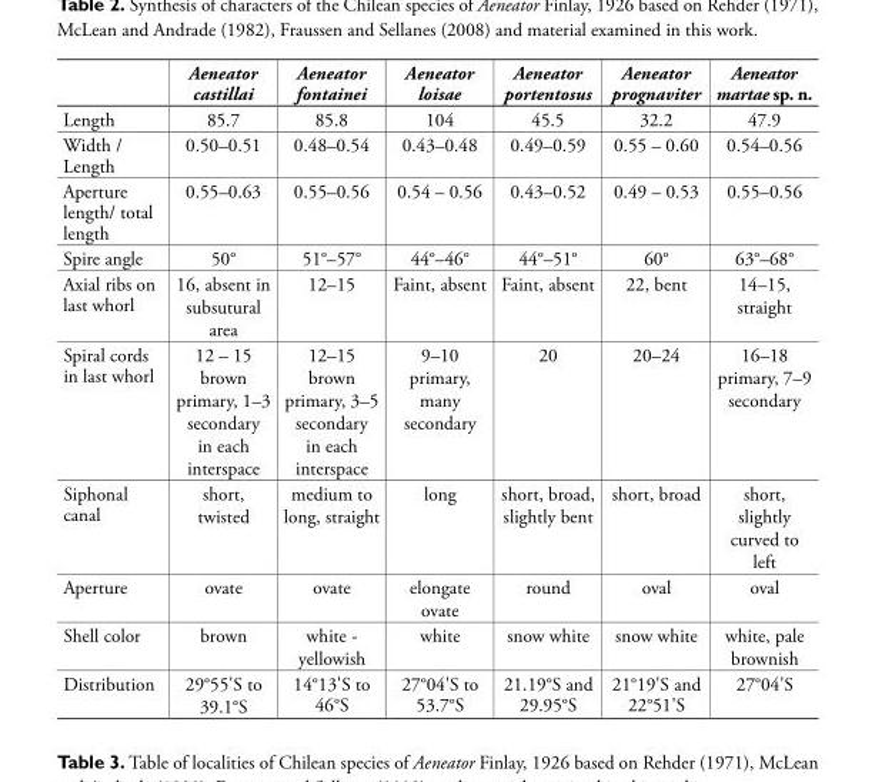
<table><thead><tr><td></td><td>Aeneator castillai</td><td>Aeneator fontainei</td><td>Aeneator loisae</td><td>Aeneator portentosus</td><td>Aeneator prognaviter</td><td>Aeneator martae sp. n.</td></tr></thead><tbody><tr><td>Length</td><td>85.7</td><td>85.8</td><td>104</td><td>45.5</td><td>32.2</td><td>47.9</td></tr><tr><td>Width / Length</td><td>0.50–0.51</td><td>0.48–0.54</td><td>0.43–0.48</td><td>0.49–0.59</td><td>0.55 – 0.60</td><td>0.54–0.56</td></tr><tr><td>Aperture length/ total length</td><td>0.55–0.63</td><td>0.55–0.56</td><td>0.54 – 0.56</td><td>0.43–0.52</td><td>0.49 – 0.53</td><td>0.55–0.56</td></tr><tr><td>Spire angle</td><td>50°</td><td>51°–57°</td><td>44°–46°</td><td>44°–51°</td><td>60°</td><td>63°–68°</td></tr><tr><td>Axial ribs on last whorl</td><td>16, absent in subsutural area</td><td>12–15</td><td>Faint, absent</td><td>Faint, absent</td><td>22, bent</td><td>14–15, straight</td></tr><tr><td>Spiral cords in last whorl</td><td>12 – 15 brown primary, 1–3 secondary in each interspace</td><td>12–15 brown primary, 3–5 secondary in each interspace</td><td>9–10 primary, many secondary</td><td>20</td><td>20–24</td><td>16–18 primary, 7–9 secondary</td></tr><tr><td>Siphonal canal</td><td>short, twisted</td><td>medium to long, straight</td><td>long</td><td>short, broad, slightly bent</td><td>short, broad</td><td>short, slightly curved to left</td></tr><tr><td>Aperture</td><td>ovate</td><td>ovate</td><td>elongate ovate</td><td>round</td><td>oval</td><td>oval</td></tr><tr><td>Shell color</td><td>brown</td><td>white - yellowish</td><td>white</td><td>snow white</td><td>snow white</td><td>white, pale brownish</td></tr><tr><td>Distribution</td><td>29°55&#x27;S to 39.1°S</td><td>14°13&#x27;S to 46°S</td><td>27°04&#x27;S to 53.7°S</td><td>21.19°S and 29.95°S</td><td>21°19&#x27;S and 22°51&#x27;S</td><td>27°04&#x27;S</td></tr></tbody></table>